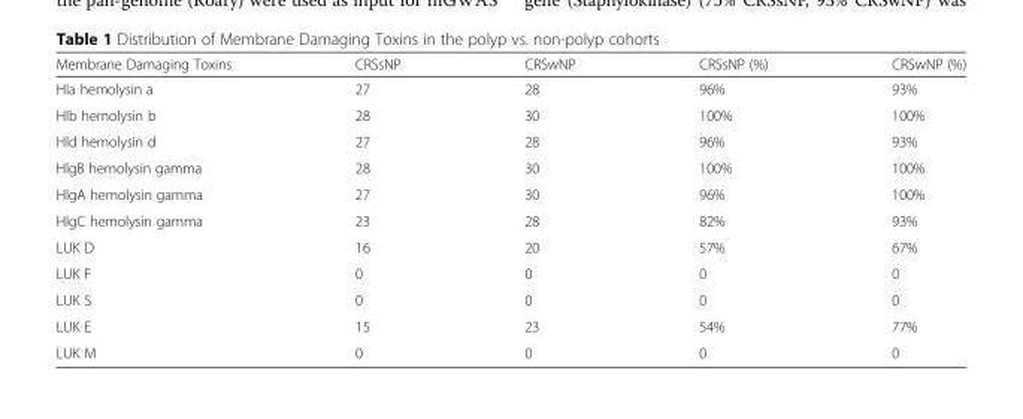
<table><thead><tr><td>Membrane Damaging Toxins</td><td>CRSsNP</td><td>CRSwNP</td><td>CRSsNP (%)</td><td>CRSwNP (%)</td></tr></thead><tbody><tr><td>Hla hemolysin a</td><td>27</td><td>28</td><td>96%</td><td>93%</td></tr><tr><td>Hlb hemolysin b</td><td>28</td><td>30</td><td>100%</td><td>100%</td></tr><tr><td>Hld hemolysin d</td><td>27</td><td>28</td><td>96%</td><td>93%</td></tr><tr><td>HlgB hemolysin gamma</td><td>28</td><td>30</td><td>100%</td><td>100%</td></tr><tr><td>HlgA hemolysin gamma</td><td>27</td><td>30</td><td>96%</td><td>100%</td></tr><tr><td>HlgC hemolysin gamma</td><td>23</td><td>28</td><td>82%</td><td>93%</td></tr><tr><td>LUK D</td><td>16</td><td>20</td><td>57%</td><td>67%</td></tr><tr><td>LUK F</td><td>0</td><td>0</td><td>0</td><td>0</td></tr><tr><td>LUK S</td><td>0</td><td>0</td><td>0</td><td>0</td></tr><tr><td>LUK E</td><td>15</td><td>23</td><td>54%</td><td>77%</td></tr><tr><td>LUK M</td><td>0</td><td>0</td><td>0</td><td>0</td></tr></tbody></table>